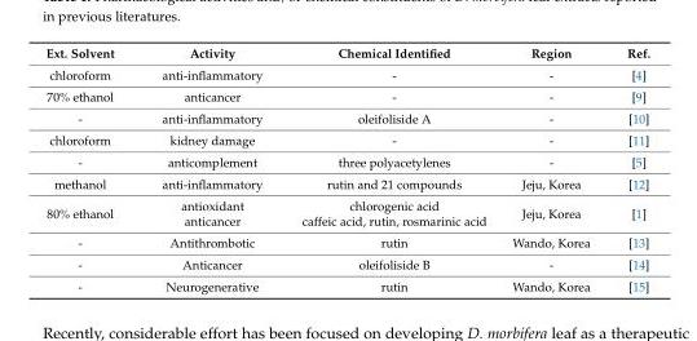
<table><thead><tr><td>Ext. Solvent</td><td>Activity</td><td>Chemical Identified</td><td>Region</td><td>Ref.</td></tr></thead><tbody><tr><td>chloroform</td><td>anti-inflammatory</td><td>-</td><td>-</td><td>[4]</td></tr><tr><td>70% ethanol</td><td>anticancer</td><td>-</td><td>-</td><td>[9]</td></tr><tr><td>-</td><td>anti-inflammatory</td><td>oleifoliside A</td><td>-</td><td>[10]</td></tr><tr><td>chloroform</td><td>kidney damage</td><td>-</td><td>-</td><td>[11]</td></tr><tr><td>-</td><td>anticomplement</td><td>three polyacetylenes</td><td>-</td><td>[5]</td></tr><tr><td>methanol</td><td>anti-inflammatory</td><td>rutin and 21 compounds</td><td>Jeju, Korea</td><td>[12]</td></tr><tr><td>80% ethanol</td><td>antioxidant anticancer</td><td>chlorogenic acid caffeic acid, rutin, rosmarinic acid</td><td>Jeju, Korea</td><td>[1]</td></tr><tr><td>-</td><td>Antithrombotic</td><td>rutin</td><td>Wando, Korea</td><td>[13]</td></tr><tr><td>-</td><td>Anticancer</td><td>oleifoliside B</td><td>-</td><td>[14]</td></tr><tr><td>-</td><td>Neurogenerative</td><td>rutin</td><td>Wando, Korea</td><td>[15]</td></tr></tbody></table>